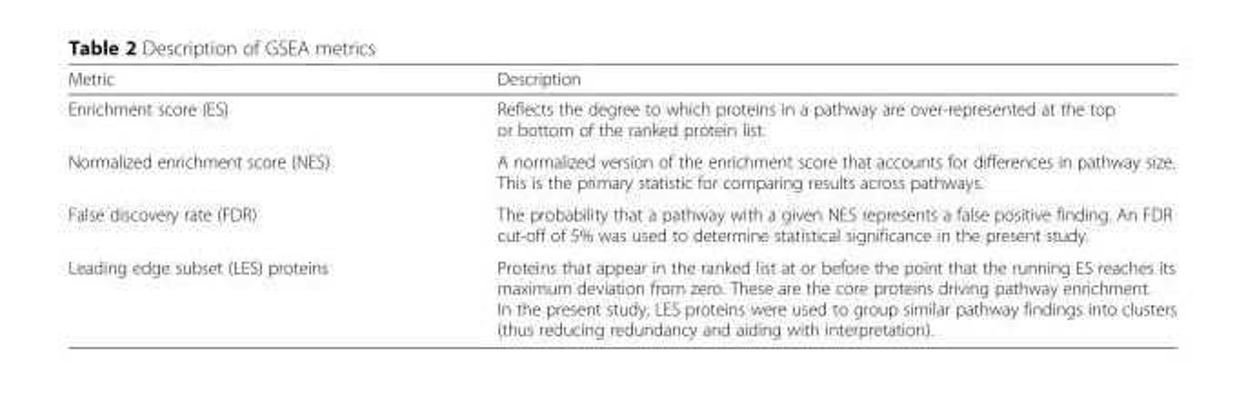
<table><thead><tr><td>Metric</td><td>Description</td></tr></thead><tbody><tr><td>Enrichment score (ES)</td><td>Reflects the degree to which proteins in a pathway are over-represented at the top or bottom of the ranked protein list.</td></tr><tr><td>Normalized enrichment score (NES)</td><td>A normalized version of the enrichment score that accounts for differences in pathway size. This is the primary statistic for comparing results across pathways.</td></tr><tr><td>False discovery rate (FDR)</td><td>The probability that a pathway with a given NES represents a false positive finding. An FDR cut-off of 5% was used to determine statistical significance in the present study.</td></tr><tr><td>Leading edge subset (LES) proteins</td><td>Proteins that appear in the ranked list at or before the point that the running ES reaches its maximum deviation from zero. These are the core proteins driving pathway enrichment. In the present study, LES proteins were used to group similar pathway findings into clusters (thus reducing redundancy and aiding with interpretation).</td></tr></tbody></table>